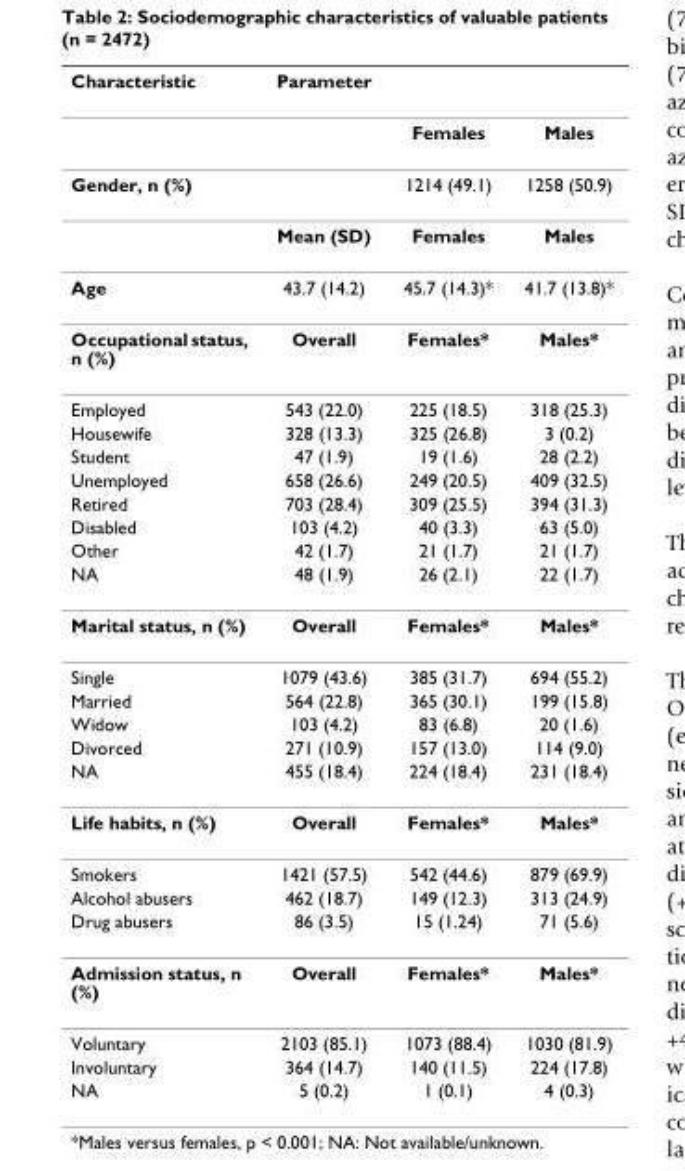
<table><thead><tr><td>Characteristic</td><td>Parameter</td><td></td><td></td></tr></thead><tbody><tr><td></td><td></td><td>Females</td><td>Males</td></tr><tr><td rowspan="2">Gender, n (%)</td><td></td><td>1214 (49.1)</td><td>1258 (50.9)</td></tr><tr><td>Mean (SD)</td><td>Females</td><td>Males</td></tr><tr><td>Age</td><td>43.7 (14.2)</td><td>45.7 (14.3)*</td><td>41.7 (13.8)*</td></tr><tr><td>Occupational status, n (%)</td><td>Overall</td><td>Females*</td><td>Males*</td></tr><tr><td>Employed</td><td>543 (22.0)</td><td>225 (18.5)</td><td>318 (25.3)</td></tr><tr><td>Housewife</td><td>328 (13.3)</td><td>325 (26.8)</td><td>3 (0.2)</td></tr><tr><td>Student</td><td>47 (1.9)</td><td>19 (1.6)</td><td>28 (2.2)</td></tr><tr><td>Unemployed</td><td>658 (26.6)</td><td>249 (20.5)</td><td>409 (32.5)</td></tr><tr><td>Retired</td><td>703 (28.4)</td><td>309 (25.5)</td><td>394 (31.3)</td></tr><tr><td>Disabled</td><td>103 (4.2)</td><td>40 (3.3)</td><td>63 (5.0)</td></tr><tr><td>Other</td><td>42 (1.7)</td><td>21 (1.7)</td><td>21 (1.7)</td></tr><tr><td>NA</td><td>48 (1.9)</td><td>26 (2.1)</td><td>22 (1.7)</td></tr><tr><td>Marital status, n (%)</td><td>Overall</td><td>Females*</td><td>Males*</td></tr><tr><td>Single</td><td>1079 (43.6)</td><td>385 (31.7)</td><td>694 (55.2)</td></tr><tr><td>Married</td><td>564 (22.8)</td><td>365 (30.1)</td><td>199 (15.8)</td></tr><tr><td>Widow</td><td>103 (4.2)</td><td>83 (6.8)</td><td>20 (1.6)</td></tr><tr><td>Divorced</td><td>271 (10.9)</td><td>157 (13.0)</td><td>114 (9.0)</td></tr><tr><td>NA</td><td>455 (18.4)</td><td>224 (18.4)</td><td>231 (18.4)</td></tr><tr><td>Life habits, n (%)</td><td>Overall</td><td>Females*</td><td>Males*</td></tr><tr><td>Smokers</td><td>1421 (57.5)</td><td>542 (44.6)</td><td>879 (69.9)</td></tr><tr><td>Alcohol abusers</td><td>462 (18.7)</td><td>149 (12.3)</td><td>313 (24.9)</td></tr><tr><td>Drug abusers</td><td>86 (3.5)</td><td>15 (1.24)</td><td>71 (5.6)</td></tr><tr><td>Admission status, n (%)</td><td>Overall</td><td>Females*</td><td>Males*</td></tr><tr><td>Voluntary</td><td>2103 (85.1)</td><td>1073 (88.4)</td><td>1030 (81.9)</td></tr><tr><td>Involuntary</td><td>364 (14.7)</td><td>140 (11.5)</td><td>224 (17.8)</td></tr><tr><td>NA</td><td>5 (0.2)</td><td>1 (0.1)</td><td>4 (0.3)</td></tr></tbody></table>